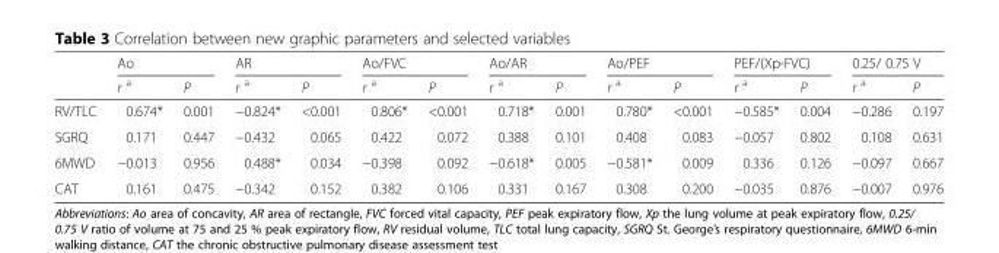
<table><thead><tr><td rowspan="2"></td><td colspan="2">Ao</td><td colspan="2">AR</td><td colspan="2">Ao/FVC</td><td colspan="2">Ao/AR</td><td colspan="2">Ao/PEF</td><td colspan="2">PEF/(Xp-FVC)</td><td colspan="2">0.25/ 0.75 V</td></tr><tr><td>r <sup>a</sup></td><td>P</td><td>r <sup>a</sup></td><td>P</td><td>r <sup>a</sup></td><td>P</td><td>r <sup>a</sup></td><td>P</td><td>r <sup>a</sup></td><td>P</td><td>r <sup>a</sup></td><td>P</td><td>r <sup>a</sup></td><td>P</td></tr></thead><tbody><tr><td>RV/TLC</td><td>0.674*</td><td>0.001</td><td>−0.824*</td><td>&lt;0.001</td><td>0.806*</td><td>&lt;0.001</td><td>0.718*</td><td>0.001</td><td>0.780*</td><td>&lt;0.001</td><td>−0.585*</td><td>0.004</td><td>−0.286</td><td>0.197</td></tr><tr><td>SGRQ</td><td>0.171</td><td>0.447</td><td>−0.432</td><td>0.065</td><td>0.422</td><td>0.072</td><td>0.388</td><td>0.101</td><td>0.408</td><td>0.083</td><td>−0.057</td><td>0.802</td><td>0.108</td><td>0.631</td></tr><tr><td>6MWD</td><td>−0.013</td><td>0.956</td><td>0.488*</td><td>0.034</td><td>−0.398</td><td>0.092</td><td>−0.618*</td><td>0.005</td><td>−0.581*</td><td>0.009</td><td>0.336</td><td>0.126</td><td>−0.097</td><td>0.667</td></tr><tr><td>CAT</td><td>0.161</td><td>0.475</td><td>−0.342</td><td>0.152</td><td>0.382</td><td>0.106</td><td>0.331</td><td>0.167</td><td>0.308</td><td>0.200</td><td>−0.035</td><td>0.876</td><td>−0.007</td><td>0.976</td></tr></tbody></table>